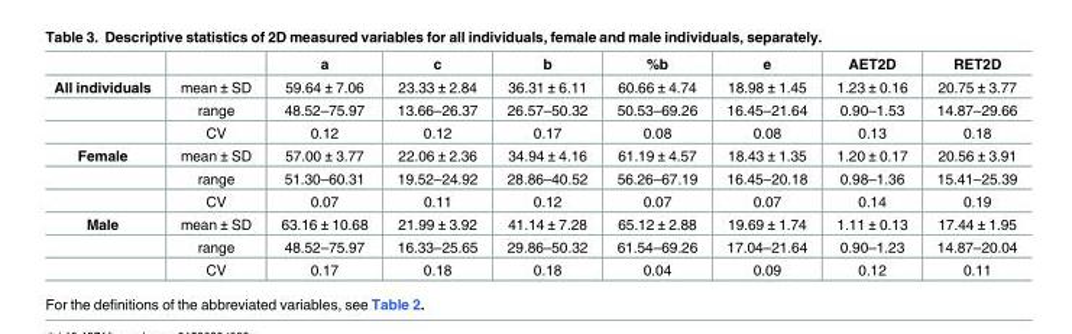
<table><thead><tr><td></td><td></td><td>a</td><td>c</td><td>b</td><td>%b</td><td>e</td><td>AET2D</td><td>RET2D</td></tr></thead><tbody><tr><td rowspan="3">All individuals</td><td>mean ± SD</td><td>59.64 ± 7.06</td><td>23.33 ± 2.84</td><td>36.31 ± 6.11</td><td>60.66 ± 4.74</td><td>18.98 ± 1.45</td><td>1.23 ± 0.16</td><td>20.75 ± 3.77</td></tr><tr><td>range</td><td>48.52–75.97</td><td>13.66–26.37</td><td>26.57–50.32</td><td>50.53–69.26</td><td>16.45–21.64</td><td>0.90–1.53</td><td>14.87–29.66</td></tr><tr><td>CV</td><td>0.12</td><td>0.12</td><td>0.17</td><td>0.08</td><td>0.08</td><td>0.13</td><td>0.18</td></tr><tr><td rowspan="3">Female</td><td>mean ± SD</td><td>57.00 ± 3.77</td><td>22.06 ± 2.36</td><td>34.94 ± 4.16</td><td>61.19 ± 4.57</td><td>18.43 ± 1.35</td><td>1.20 ± 0.17</td><td>20.56 ± 3.91</td></tr><tr><td>range</td><td>51.30–60.31</td><td>19.52–24.92</td><td>28.86–40.52</td><td>56.26–67.19</td><td>16.45–20.18</td><td>0.98–1.36</td><td>15.41–25.39</td></tr><tr><td>CV</td><td>0.07</td><td>0.11</td><td>0.12</td><td>0.07</td><td>0.07</td><td>0.14</td><td>0.19</td></tr><tr><td rowspan="3">Male</td><td>mean ± SD</td><td>63.16 ± 10.68</td><td>21.99 ± 3.92</td><td>41.14 ± 7.28</td><td>65.12 ± 2.88</td><td>19.69 ± 1.74</td><td>1.11 ± 0.13</td><td>17.44 ± 1.95</td></tr><tr><td>range</td><td>48.52–75.97</td><td>16.33–25.65</td><td>29.86–50.32</td><td>61.54–69.26</td><td>17.04–21.64</td><td>0.90–1.23</td><td>14.87–20.04</td></tr><tr><td>CV</td><td>0.17</td><td>0.18</td><td>0.18</td><td>0.04</td><td>0.09</td><td>0.12</td><td>0.11</td></tr></tbody></table>